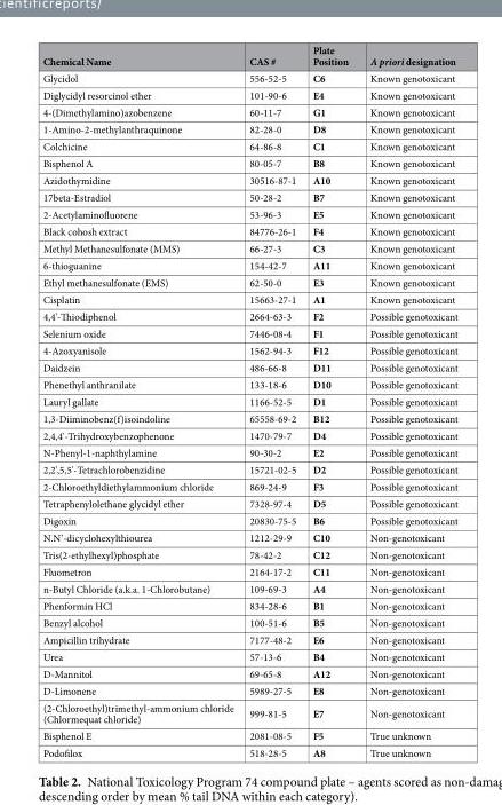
<table><thead><tr><td>Chemical Name</td><td>CAS #</td><td>Plate Position</td><td>A priori designation</td></tr></thead><tbody><tr><td>Glycidol</td><td>556-52-5</td><td>C6</td><td>Known genotoxicant</td></tr><tr><td>Diglycidyl resorcinol ether</td><td>101-90-6</td><td>E4</td><td>Known genotoxicant</td></tr><tr><td>4-(Dimethylamino)azobenzene</td><td>60-11-7</td><td>G1</td><td>Known genotoxicant</td></tr><tr><td>1-Amino-2-methylanthraquinone</td><td>82-28-0</td><td>D8</td><td>Known genotoxicant</td></tr><tr><td>Colchicine</td><td>64-86-8</td><td>C1</td><td>Known genotoxicant</td></tr><tr><td>Bisphenol A</td><td>80-05-7</td><td>B8</td><td>Known genotoxicant</td></tr><tr><td>Azidothymidine</td><td>30516-87-1</td><td>A10</td><td>Known genotoxicant</td></tr><tr><td>17beta-Estradiol</td><td>50-28-2</td><td>B7</td><td>Known genotoxicant</td></tr><tr><td>2-Acetylaminofluorene</td><td>53-96-3</td><td>E5</td><td>Known genotoxicant</td></tr><tr><td>Black cohosh extract</td><td>84776-26-1</td><td>F4</td><td>Known genotoxicant</td></tr><tr><td>Methyl Methanesulfonate (MMS)</td><td>66-27-3</td><td>C3</td><td>Known genotoxicant</td></tr><tr><td>6-thioguanine</td><td>154-42-7</td><td>A11</td><td>Known genotoxicant</td></tr><tr><td>Ethyl methanesulfonate (EMS)</td><td>62-50-0</td><td>E3</td><td>Known genotoxicant</td></tr><tr><td>Cisplatin</td><td>15663-27-1</td><td>A1</td><td>Known genotoxicant</td></tr><tr><td>4,4&#x27;-Thiodiphenol</td><td>2664-63-3</td><td>F2</td><td>Possible genotoxicant</td></tr><tr><td>Selenium oxide</td><td>7446-08-4</td><td>F1</td><td>Possible genotoxicant</td></tr><tr><td>4-Azoxyanisole</td><td>1562-94-3</td><td>F12</td><td>Possible genotoxicant</td></tr><tr><td>Daidzein</td><td>486-66-8</td><td>D11</td><td>Possible genotoxicant</td></tr><tr><td>Phenethyl anthranilate</td><td>133-18-6</td><td>D10</td><td>Possible genotoxicant</td></tr><tr><td>Lauryl gallate</td><td>1166-52-5</td><td>D1</td><td>Possible genotoxicant</td></tr><tr><td>1,3-Diiminobenz(f)isoindoline</td><td>65558-69-2</td><td>B12</td><td>Possible genotoxicant</td></tr><tr><td>2,4,4&#x27;-Trihydroxybenzophenone</td><td>1470-79-7</td><td>D4</td><td>Possible genotoxicant</td></tr><tr><td>N-Phenyl-1-naphthylamine</td><td>90-30-2</td><td>E2</td><td>Possible genotoxicant</td></tr><tr><td>2,2&#x27;,5,5&#x27;-Tetrachlorobenzidine</td><td>15721-02-5</td><td>D2</td><td>Possible genotoxicant</td></tr><tr><td>2-Chloroethyldiethylammonium chloride</td><td>869-24-9</td><td>F3</td><td>Possible genotoxicant</td></tr><tr><td>Tetraphenylolethane glycidyl ether</td><td>7328-97-4</td><td>D5</td><td>Possible genotoxicant</td></tr><tr><td>Digoxin</td><td>20830-75-5</td><td>B6</td><td>Possible genotoxicant</td></tr><tr><td>N.N’-dicyclohexylthiourea</td><td>1212-29-9</td><td>C10</td><td>Non-genotoxicant</td></tr><tr><td>Tris(2-ethylhexyl)phosphate</td><td>78-42-2</td><td>C12</td><td>Non-genotoxicant</td></tr><tr><td>Fluometron</td><td>2164-17-2</td><td>C11</td><td>Non-genotoxicant</td></tr><tr><td>n-Butyl Chloride (a.k.a. 1-Chlorobutane)</td><td>109-69-3</td><td>A4</td><td>Non-genotoxicant</td></tr><tr><td>Phenformin HCl</td><td>834-28-6</td><td>B1</td><td>Non-genotoxicant</td></tr><tr><td>Benzyl alcohol</td><td>100-51-6</td><td>B5</td><td>Non-genotoxicant</td></tr><tr><td>Ampicillin trihydrate</td><td>7177-48-2</td><td>E6</td><td>Non-genotoxicant</td></tr><tr><td>Urea</td><td>57-13-6</td><td>B4</td><td>Non-genotoxicant</td></tr><tr><td>D-Mannitol</td><td>69-65-8</td><td>A12</td><td>Non-genotoxicant</td></tr><tr><td>D-Limonene</td><td>5989-27-5</td><td>E8</td><td>Non-genotoxicant</td></tr><tr><td>(2-Chloroethyl)trimethyl-ammonium chloride (Chlormequat chloride)</td><td>999-81-5</td><td>E7</td><td>Non-genotoxicant</td></tr><tr><td>Bisphenol E</td><td>2081-08-5</td><td>F5</td><td>True unknown</td></tr><tr><td>Podofilox</td><td>518-28-5</td><td>A8</td><td>True unknown</td></tr></tbody></table>